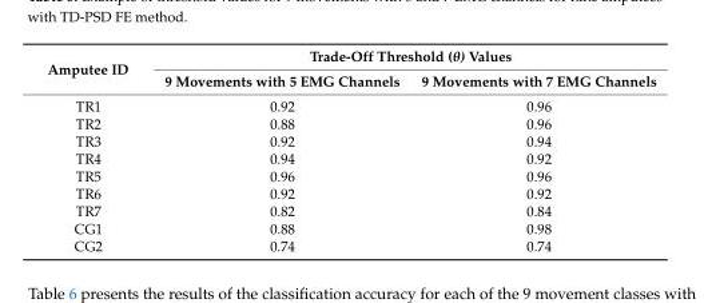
<table><thead><tr><td rowspan="2">Amputee ID</td><td colspan="2">Trade-Off Threshold (θ) Values</td></tr><tr><td>9 Movements with 5 EMG Channels</td><td>9 Movements with 7 EMG Channels</td></tr></thead><tbody><tr><td>TR1</td><td>0.92</td><td>0.96</td></tr><tr><td>TR2</td><td>0.88</td><td>0.96</td></tr><tr><td>TR3</td><td>0.92</td><td>0.94</td></tr><tr><td>TR4</td><td>0.94</td><td>0.92</td></tr><tr><td>TR5</td><td>0.96</td><td>0.96</td></tr><tr><td>TR6</td><td>0.92</td><td>0.92</td></tr><tr><td>TR7</td><td>0.82</td><td>0.84</td></tr><tr><td>CG1</td><td>0.88</td><td>0.98</td></tr><tr><td>CG2</td><td>0.74</td><td>0.74</td></tr></tbody></table>